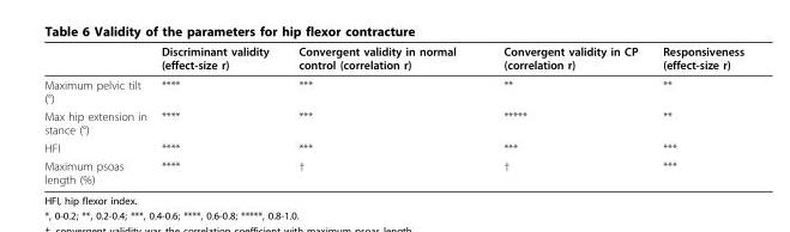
<table><thead><tr><td></td><td>Discriminant validity (effect-size r)</td><td>Convergent validity in normal control (correlation r)</td><td>Convergent validity in CP (correlation r)</td><td>Responsiveness (effect-size r)</td></tr></thead><tbody><tr><td>Maximum pelvic tilt (°)</td><td>****</td><td>***</td><td>**</td><td>**</td></tr><tr><td>Max hip extension in stance (°)</td><td>****</td><td>***</td><td>*****</td><td>**</td></tr><tr><td>HFI</td><td>****</td><td>***</td><td>***</td><td>***</td></tr><tr><td>Maximum psoas length (%)</td><td>****</td><td>†</td><td>†</td><td>***</td></tr></tbody></table>